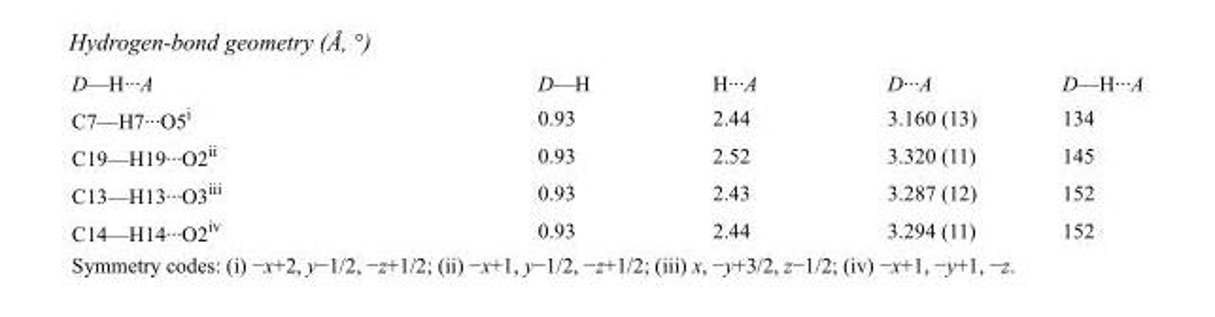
<table><tbody><tr><td>D—H···A</td><td>D—H</td><td>H···A</td><td>D···A</td><td>D—H···A</td></tr><tr><td>C7—H7···O5<sup>i</sup></td><td>0.93</td><td>2.44</td><td>3.160 (13)</td><td>134</td></tr><tr><td>C19—H19···O2<sup>ii</sup></td><td>0.93</td><td>2.52</td><td>3.320 (11)</td><td>145</td></tr><tr><td>C13—H13···O3<sup>iii</sup></td><td>0.93</td><td>2.43</td><td>3.287 (12)</td><td>152</td></tr><tr><td>C14—H14···O2<sup>iv</sup></td><td>0.93</td><td>2.44</td><td>3.294 (11)</td><td>152</td></tr></tbody></table>